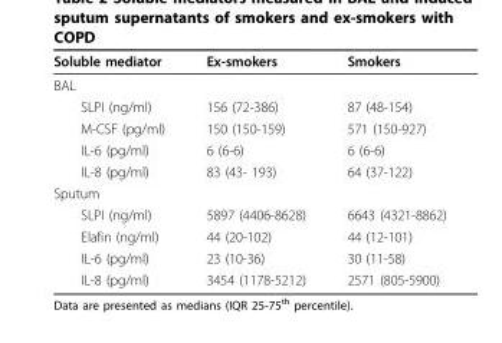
<table><thead><tr><td>Soluble mediator</td><td>Ex-smokers</td><td>Smokers</td></tr></thead><tbody><tr><td colspan="3">BAL</td></tr><tr><td>SLPI (ng/ml)</td><td>156 (72-386)</td><td>87 (48-154)</td></tr><tr><td>M-CSF (pg/ml)</td><td>150 (150-159)</td><td>571 (150-927)</td></tr><tr><td>IL-6 (pg/ml)</td><td>6 (6-6)</td><td>6 (6-6)</td></tr><tr><td>IL-8 (pg/ml)</td><td>83 (43- 193)</td><td>64 (37-122)</td></tr><tr><td colspan="3">Sputum</td></tr><tr><td>SLPI (ng/ml)</td><td>5897 (4406-8628)</td><td>6643 (4321-8862)</td></tr><tr><td>Elafin (ng/ml)</td><td>44 (20-102)</td><td>44 (12-101)</td></tr><tr><td>IL-6 (pg/ml)</td><td>23 (10-36)</td><td>30 (11-58)</td></tr><tr><td>IL-8 (pg/ml)</td><td>3454 (1178-5212)</td><td>2571 (805-5900)</td></tr></tbody></table>